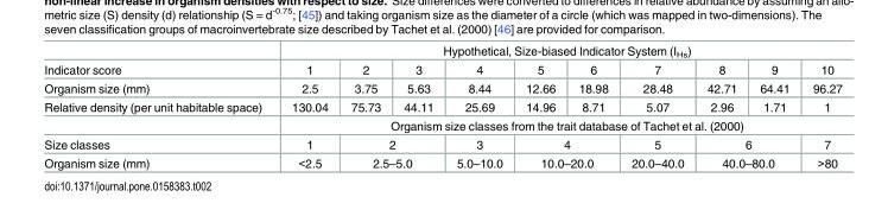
<table><thead><tr><td rowspan="2">Indicator score</td><td colspan="10">Hypothetical, Size-biased Indicator System (I<sub>Hs</sub>)</td></tr><tr><td>1</td><td>2</td><td>3</td><td>4</td><td>5</td><td>6</td><td>7</td><td>8</td><td>9</td><td>10</td></tr></thead><tbody><tr><td>Organism size (mm)</td><td>2.5</td><td>3.75</td><td>5.63</td><td>8.44</td><td>12.66</td><td>18.98</td><td>28.48</td><td>42.71</td><td>64.41</td><td>96.27</td></tr><tr><td rowspan="2">Relative density (per unit habitable space)</td><td>130.04</td><td>75.73</td><td>44.11</td><td>25.69</td><td>14.96</td><td>8.71</td><td>5.07</td><td>2.96</td><td>1.71</td><td>1</td></tr><tr><td colspan="10">Organism size classes from the trait database of Tachet et al. (2000)</td></tr><tr><td>Size classes</td><td>1</td><td colspan="2">2</td><td>3</td><td colspan="2">4</td><td>5</td><td colspan="2">6</td><td>7</td></tr><tr><td>Organism size (mm)</td><td>&lt;2.5</td><td colspan="2">2.5–5.0</td><td>5.0–10.0</td><td colspan="2">10.0–20.0</td><td>20.0–40.0</td><td colspan="2">40.0–80.0</td><td>&gt;80</td></tr></tbody></table>